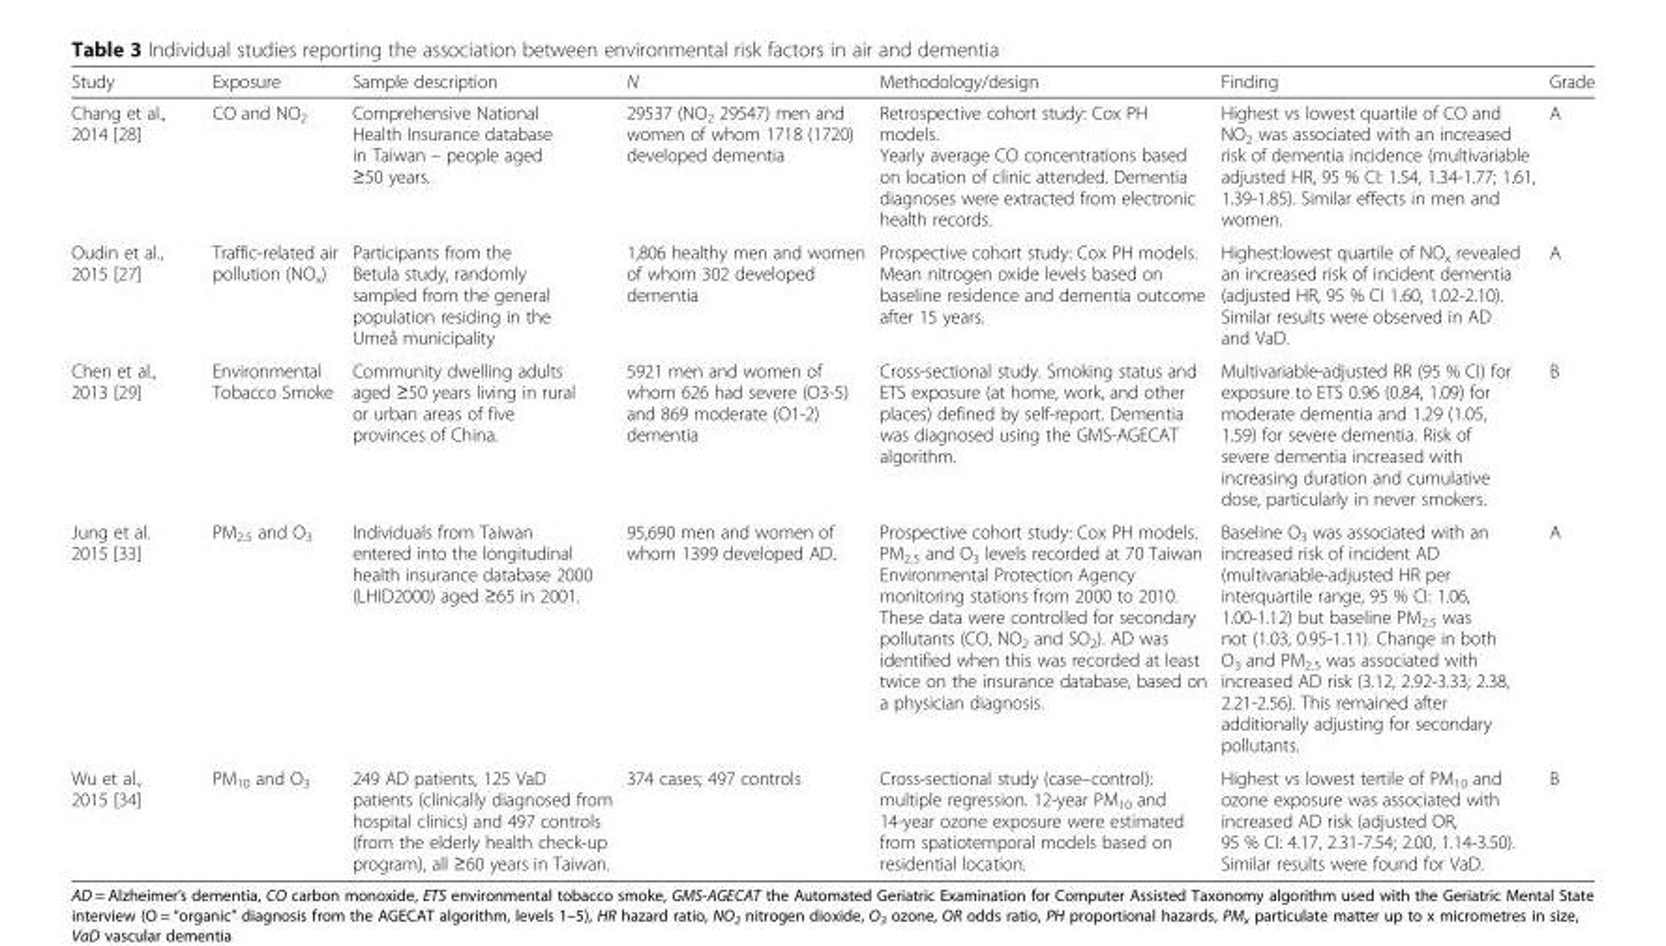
<table><thead><tr><td>Study</td><td>Exposure</td><td>Sample description</td><td>N</td><td>Methodology/design</td><td>Finding</td><td>Grade</td></tr></thead><tbody><tr><td>Chang et al., 2014 [28]</td><td>CO and NO<sub>2</sub></td><td>Comprehensive National Health Insurance database in Taiwan – people aged ≥50 years.</td><td>29537 (NO<sub>2</sub> 29547) men and women of whom 1718 (1720) developed dementia</td><td>Retrospective cohort study: Cox PH models. Yearly average CO concentrations based on location of clinic attended. Dementia diagnoses were extracted from electronic health records.</td><td>Highest vs lowest quartile of CO and NO<sub>2</sub> was associated with an increased risk of dementia incidence (multivariable adjusted HR, 95 % CI: 1.54, 1.34-1.77; 1.61, 1.39-1.85). Similar effects in men and women.</td><td>A</td></tr><tr><td>Oudin et al., 2015 [27]</td><td>Traffic-related air pollution (NO<sub>x</sub>)</td><td>Participants from the Betula study, randomly sampled from the general population residing in the Umeå municipality</td><td>1,806 healthy men and women of whom 302 developed dementia</td><td>Prospective cohort study: Cox PH models. Mean nitrogen oxide levels based on baseline residence and dementia outcome after 15 years.</td><td>Highest:lowest quartile of NO<sub>x</sub> revealed an increased risk of incident dementia (adjusted HR, 95 % CI 1.60, 1.02-2.10). Similar results were observed in AD and VaD.</td><td>A</td></tr><tr><td>Chen et al., 2013 [29]</td><td>Environmental Tobacco Smoke</td><td>Community dwelling adults aged ≥50 years living in rural or urban areas of five provinces of China.</td><td>5921 men and women of whom 626 had severe (O3-5) and 869 moderate (O1-2) dementia</td><td>Cross-sectional study. Smoking status and ETS exposure (at home, work, and other places) defined by self-report. Dementia was diagnosed using the GMS-AGECAT algorithm.</td><td>Multivariable-adjusted RR (95 % CI) for exposure to ETS 0.96 (0.84, 1.09) for moderate dementia and 1.29 (1.05, 1.59) for severe dementia. Risk of severe dementia increased with increasing duration and cumulative dose, particularly in never smokers.</td><td>B</td></tr><tr><td>Jung et al. 2015 [33]</td><td>PM<sub>2.5</sub> and O<sub>3</sub></td><td>Individuals from Taiwan entered into the longitudinal health insurance database 2000 (LHID2000) aged ≥65 in 2001.</td><td>95,690 men and women of whom 1399 developed AD.</td><td>Prospective cohort study: Cox PH models. PM<sub>2.5</sub> and O<sub>3</sub> levels recorded at 70 Taiwan Environmental Protection Agency monitoring stations from 2000 to 2010. These data were controlled for secondary pollutants (CO, NO<sub>2</sub> and SO<sub>2</sub>). AD was identified when this was recorded at least twice on the insurance database, based on a physician diagnosis.</td><td>Baseline O<sub>3</sub> was associated with an increased risk of incident AD (multivariable-adjusted HR per interquartile range, 95 % CI: 1.06, 1.00-1.12) but baseline PM<sub>2.5</sub> was not (1.03, 0.95-1.11). Change in both O<sub>3</sub> and PM<sub>2.5</sub> was associated with increased AD risk (3.12, 2.92-3.33; 2.38, 2.21-2.56). This remained after additionally adjusting for secondary pollutants.</td><td>A</td></tr><tr><td>Wu et al., 2015 [34]</td><td>PM<sub>10</sub> and O<sub>3</sub></td><td>249 AD patients, 125 VaD patients (clinically diagnosed from hospital clinics) and 497 controls (from the elderly health check-up program), all ≥60 years in Taiwan.</td><td>374 cases; 497 controls</td><td>Cross-sectional study (case–control): multiple regression. 12-year PM<sub>10</sub> and 14-year ozone exposure were estimated from spatiotemporal models based on residential location.</td><td>Highest vs lowest tertile of PM<sub>10</sub> and ozone exposure was associated with increased AD risk (adjusted OR, 95 % CI: 4.17, 2.31-7.54; 2.00, 1.14-3.50). Similar results were found for VaD.</td><td>B</td></tr></tbody></table>